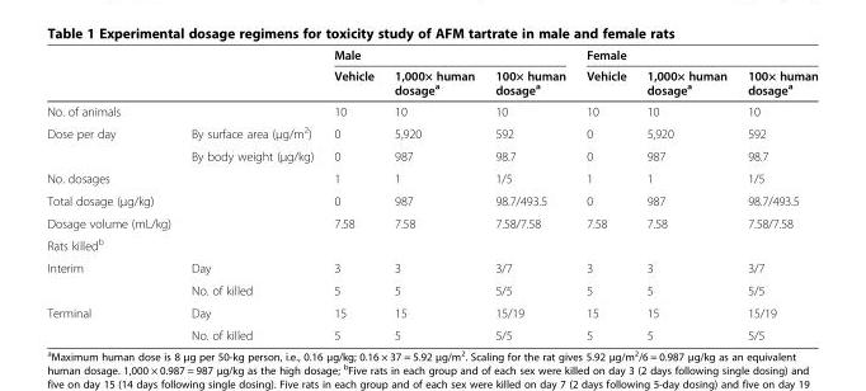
<table><thead><tr><td rowspan="2"></td><td rowspan="2"></td><td colspan="3">Male</td><td colspan="3">Female</td></tr><tr><td>Vehicle</td><td>1,000× human dosage<sup>a</sup></td><td>100× human dosage<sup>a</sup></td><td>Vehicle</td><td>1,000× human dosage<sup>a</sup></td><td>100× human dosage<sup>a</sup></td></tr></thead><tbody><tr><td>No. of animals</td><td></td><td>10</td><td>10</td><td>10</td><td>10</td><td>10</td><td>10</td></tr><tr><td rowspan="2">Dose per day</td><td>By surface area (μg/m<sup>2</sup>)</td><td>0</td><td>5,920</td><td>592</td><td>0</td><td>5,920</td><td>592</td></tr><tr><td>By body weight (μg/kg)</td><td>0</td><td>987</td><td>98.7</td><td>0</td><td>987</td><td>98.7</td></tr><tr><td>No. dosages</td><td></td><td>1</td><td>1</td><td>1/5</td><td>1</td><td>1</td><td>1/5</td></tr><tr><td>Total dosage (μg/kg)</td><td></td><td>0</td><td>987</td><td>98.7/493.5</td><td>0</td><td>987</td><td>98.7/493.5</td></tr><tr><td>Dosage volume (mL/kg)</td><td></td><td>7.58</td><td>7.58</td><td>7.58/7.58</td><td>7.58</td><td>7.58</td><td>7.58/7.58</td></tr><tr><td colspan="8">Rats killed<sup>b</sup></td></tr><tr><td rowspan="2">Interim</td><td>Day</td><td>3</td><td>3</td><td>3/7</td><td>3</td><td>3</td><td>3/7</td></tr><tr><td>No. of killed</td><td>5</td><td>5</td><td>5/5</td><td>5</td><td>5</td><td>5/5</td></tr><tr><td rowspan="2">Terminal</td><td>Day</td><td>15</td><td>15</td><td>15/19</td><td>15</td><td>15</td><td>15/19</td></tr><tr><td>No. of killed</td><td>5</td><td>5</td><td>5/5</td><td>5</td><td>5</td><td>5/5</td></tr></tbody></table>